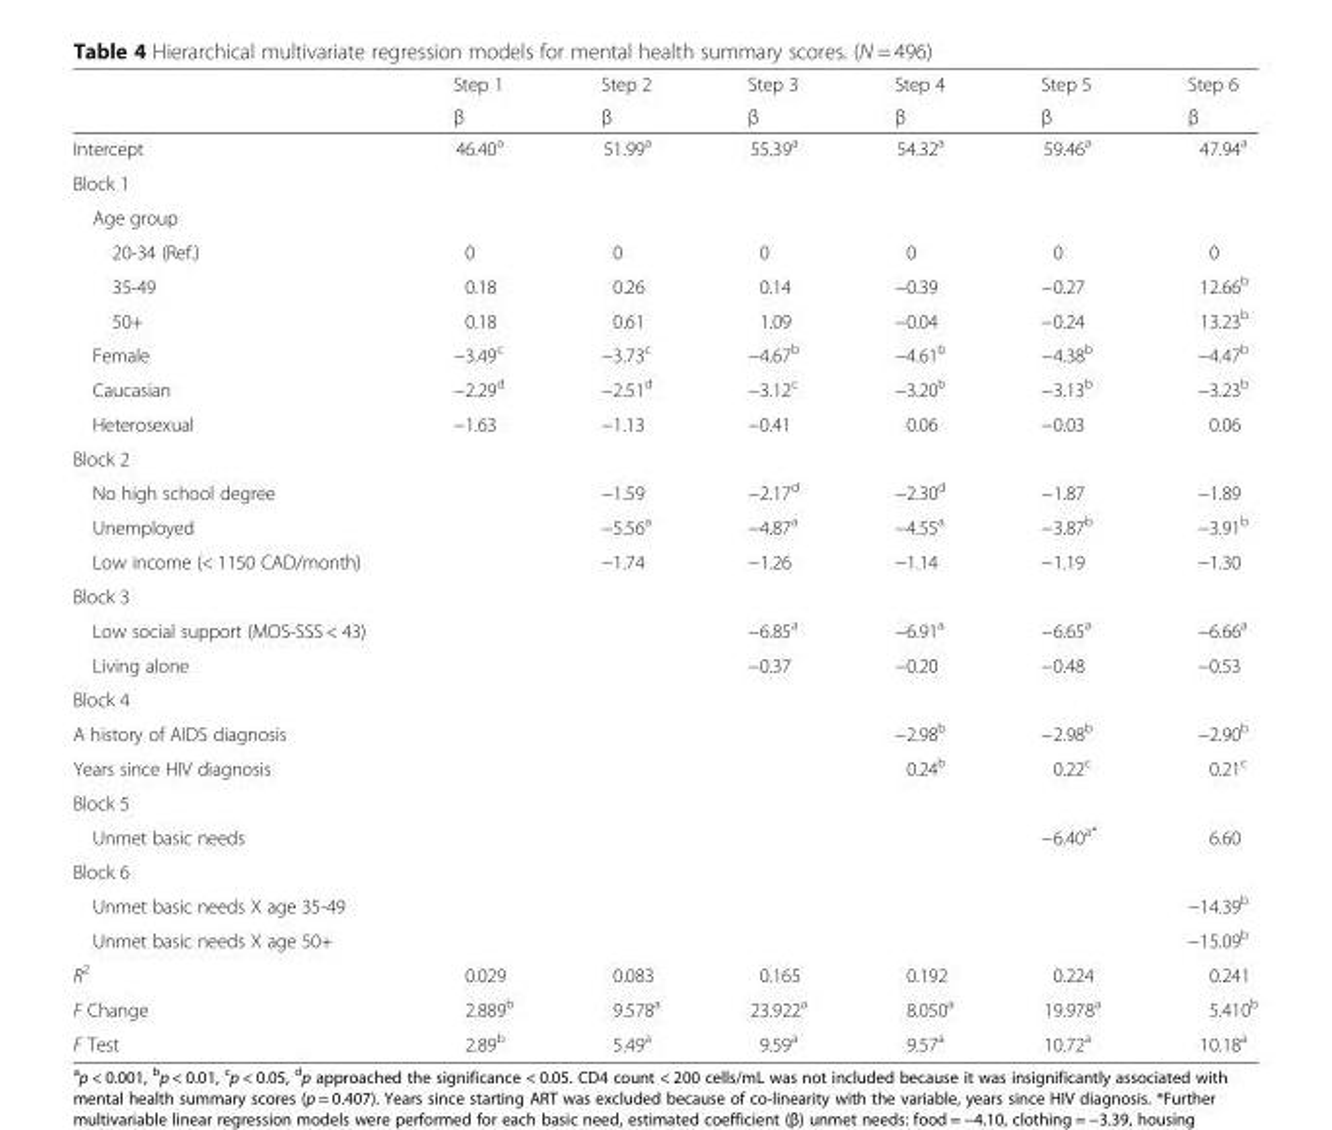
<table><thead><tr><td rowspan="2"></td><td rowspan="2">Step 1 β</td><td rowspan="2">Step 2 β</td><td rowspan="2">Step 3 β</td><td rowspan="2">Step 4 β</td><td rowspan="2">Step 5 β</td><td rowspan="2">Step 6 β</td></tr><tr></tr></thead><tbody><tr><td>Intercept</td><td>46.40<sup>a</sup></td><td>51.99<sup>a</sup></td><td>55.39<sup>a</sup></td><td>54.32<sup>a</sup></td><td>59.46<sup>a</sup></td><td>47.94<sup>a</sup></td></tr><tr><td colspan="7">Block 1</td></tr><tr><td colspan="7">Age group</td></tr><tr><td>20-34 (Ref.)</td><td>0</td><td>0</td><td>0</td><td>0</td><td>0</td><td>0</td></tr><tr><td>35-49</td><td>0.18</td><td>0.26</td><td>0.14</td><td>−0.39</td><td>−0.27</td><td>12.66<sup>b</sup></td></tr><tr><td>50+</td><td>0.18</td><td>0.61</td><td>1.09</td><td>−0.04</td><td>−0.24</td><td>13.23<sup>b</sup></td></tr><tr><td>Female</td><td>−3.49<sup>c</sup></td><td>−3.73<sup>c</sup></td><td>−4.67<sup>b</sup></td><td>−4.61<sup>b</sup></td><td>−4.38<sup>b</sup></td><td>−4.47<sup>b</sup></td></tr><tr><td>Caucasian</td><td>−2.29<sup>d</sup></td><td>−2.51<sup>d</sup></td><td>−3.12<sup>c</sup></td><td>−3.20<sup>b</sup></td><td>−3.13<sup>b</sup></td><td>−3.23<sup>b</sup></td></tr><tr><td>Heterosexual</td><td>−1.63</td><td>−1.13</td><td>−0.41</td><td>0.06</td><td>−0.03</td><td>0.06</td></tr><tr><td colspan="7">Block 2</td></tr><tr><td>No high school degree</td><td></td><td>−1.59</td><td>−2.17<sup>d</sup></td><td>−2.30<sup>d</sup></td><td>−1.87</td><td>−1.89</td></tr><tr><td>Unemployed</td><td></td><td>−5.56<sup>a</sup></td><td>−4.87<sup>a</sup></td><td>−4.55<sup>a</sup></td><td>−3.87<sup>b</sup></td><td>−3.91<sup>b</sup></td></tr><tr><td>Low income (&lt; 1150 CAD/month)</td><td></td><td>−1.74</td><td>−1.26</td><td>−1.14</td><td>−1.19</td><td>−1.30</td></tr><tr><td colspan="7">Block 3</td></tr><tr><td>Low social support (MOS-SSS &lt; 43)</td><td></td><td></td><td>−6.85<sup>a</sup></td><td>−6.91<sup>a</sup></td><td>−6.65<sup>a</sup></td><td>−6.66<sup>a</sup></td></tr><tr><td>Living alone</td><td></td><td></td><td>−0.37</td><td>−0.20</td><td>−0.48</td><td>−0.53</td></tr><tr><td colspan="7">Block 4</td></tr><tr><td>A history of AIDS diagnosis</td><td></td><td></td><td></td><td>−2.98<sup>b</sup></td><td>−2.98<sup>b</sup></td><td>−2.90<sup>b</sup></td></tr><tr><td>Years since HIV diagnosis</td><td></td><td></td><td></td><td>0.24<sup>b</sup></td><td>0.22<sup>c</sup></td><td>0.21<sup>c</sup></td></tr><tr><td colspan="7">Block 5</td></tr><tr><td>Unmet basic needs</td><td></td><td></td><td></td><td></td><td>−6.40<sup>a*</sup></td><td>6.60</td></tr><tr><td colspan="7">Block 6</td></tr><tr><td>Unmet basic needs X age 35-49</td><td></td><td></td><td></td><td></td><td></td><td>−14.39<sup>b</sup></td></tr><tr><td>Unmet basic needs X age 50+</td><td></td><td></td><td></td><td></td><td></td><td>−15.09<sup>b</sup></td></tr><tr><td>R<sup>2</sup></td><td>0.029</td><td>0.083</td><td>0.165</td><td>0.192</td><td>0.224</td><td>0.241</td></tr><tr><td>F Change</td><td>2.889<sup>b</sup></td><td>9.578<sup>a</sup></td><td>23.922<sup>a</sup></td><td>8.050<sup>a</sup></td><td>19.978<sup>a</sup></td><td>5.410<sup>b</sup></td></tr><tr><td>F Test</td><td>2.89<sup>b</sup></td><td>5.49<sup>a</sup></td><td>9.59<sup>a</sup></td><td>9.57<sup>a</sup></td><td>10.72<sup>a</sup></td><td>10.18<sup>a</sup></td></tr></tbody></table>